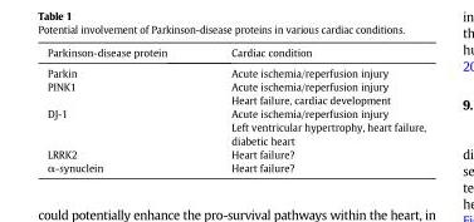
<table><thead><tr><td>Parkinson-disease protein</td><td>Cardiac condition</td></tr></thead><tbody><tr><td>Parkin</td><td>Acute ischemia/reperfusion injury</td></tr><tr><td>PINK1</td><td>Acute ischemia/reperfusion injury Heart failure, cardiac development</td></tr><tr><td>DJ-1</td><td>Acute ischemia/reperfusion injury Left ventricular hypertrophy, heart failure, diabetic heart</td></tr><tr><td>LRRK2</td><td>Heart failure?</td></tr><tr><td>α-synuclein</td><td>Heart failure?</td></tr></tbody></table>